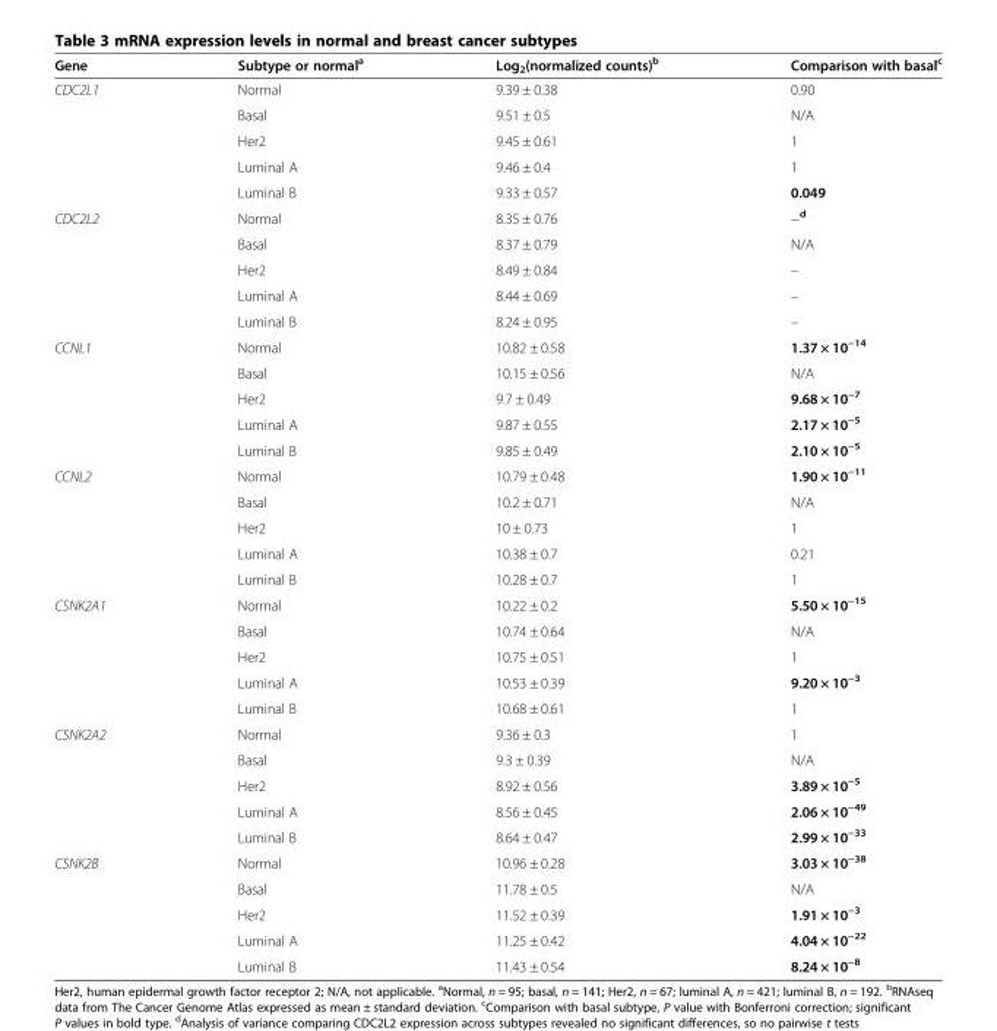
<table><thead><tr><td>Gene</td><td>Subtype or normal<sup>a</sup></td><td>Log<sub>2</sub>(normalized counts)<sup>b</sup></td><td>Comparison with basal<sup>c</sup></td></tr></thead><tbody><tr><td rowspan="5">CDC2L1</td><td>Normal</td><td>9.39 ± 0.38</td><td>0.90</td></tr><tr><td>Basal</td><td>9.51 ± 0.5</td><td>N/A</td></tr><tr><td>Her2</td><td>9.45 ± 0.61</td><td>1</td></tr><tr><td>Luminal A</td><td>9.46 ± 0.4</td><td>1</td></tr><tr><td>Luminal B</td><td>9.33 ± 0.57</td><td>0.049</td></tr><tr><td rowspan="5">CDC2L2</td><td>Normal</td><td>8.35 ± 0.76</td><td>−<sup>d</sup></td></tr><tr><td>Basal</td><td>8.37 ± 0.79</td><td>N/A</td></tr><tr><td>Her2</td><td>8.49 ± 0.84</td><td>–</td></tr><tr><td>Luminal A</td><td>8.44 ± 0.69</td><td>–</td></tr><tr><td>Luminal B</td><td>8.24 ± 0.95</td><td>–</td></tr><tr><td rowspan="5">CCNL1</td><td>Normal</td><td>10.82 ± 0.58</td><td>1.37 × 10<sup>−14</sup></td></tr><tr><td>Basal</td><td>10.15 ± 0.56</td><td>N/A</td></tr><tr><td>Her2</td><td>9.7 ± 0.49</td><td>9.68 × 10<sup>−7</sup></td></tr><tr><td>Luminal A</td><td>9.87 ± 0.55</td><td>2.17 × 10<sup>−5</sup></td></tr><tr><td>Luminal B</td><td>9.85 ± 0.49</td><td>2.10 × 10<sup>−5</sup></td></tr><tr><td rowspan="5">CCNL2</td><td>Normal</td><td>10.79 ± 0.48</td><td>1.90 × 10<sup>−11</sup></td></tr><tr><td>Basal</td><td>10.2 ± 0.71</td><td>N/A</td></tr><tr><td>Her2</td><td>10 ± 0.73</td><td>1</td></tr><tr><td>Luminal A</td><td>10.38 ± 0.7</td><td>0.21</td></tr><tr><td>Luminal B</td><td>10.28 ± 0.7</td><td>1</td></tr><tr><td rowspan="5">CSNK2A1</td><td>Normal</td><td>10.22 ± 0.2</td><td>5.50 × 10<sup>−15</sup></td></tr><tr><td>Basal</td><td>10.74 ± 0.64</td><td>N/A</td></tr><tr><td>Her2</td><td>10.75 ± 0.51</td><td>1</td></tr><tr><td>Luminal A</td><td>10.53 ± 0.39</td><td>9.20 × 10<sup>−3</sup></td></tr><tr><td>Luminal B</td><td>10.68 ± 0.61</td><td>1</td></tr><tr><td rowspan="5">CSNK2A2</td><td>Normal</td><td>9.36 ± 0.3</td><td>1</td></tr><tr><td>Basal</td><td>9.3 ± 0.39</td><td>N/A</td></tr><tr><td>Her2</td><td>8.92 ± 0.56</td><td>3.89 × 10<sup>−5</sup></td></tr><tr><td>Luminal A</td><td>8.56 ± 0.45</td><td>2.06 × 10<sup>−49</sup></td></tr><tr><td>Luminal B</td><td>8.64 ± 0.47</td><td>2.99 × 10<sup>−33</sup></td></tr><tr><td rowspan="5">CSNK2B</td><td>Normal</td><td>10.96 ± 0.28</td><td>3.03 × 10<sup>−38</sup></td></tr><tr><td>Basal</td><td>11.78 ± 0.5</td><td>N/A</td></tr><tr><td>Her2</td><td>11.52 ± 0.39</td><td>1.91 × 10<sup>−3</sup></td></tr><tr><td>Luminal A</td><td>11.25 ± 0.42</td><td>4.04 × 10<sup>−22</sup></td></tr><tr><td>Luminal B</td><td>11.43 ± 0.54</td><td>8.24 × 10<sup>−8</sup></td></tr></tbody></table>